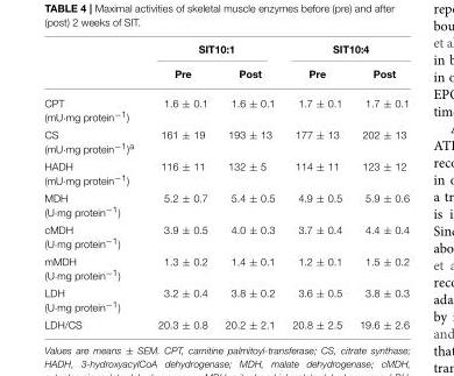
<table><thead><tr><td rowspan="2"></td><td colspan="2">SIT10:1</td><td colspan="2">SIT10:4</td></tr><tr><td>Pre</td><td>Post</td><td>Pre</td><td>Post</td></tr></thead><tbody><tr><td>CPT (mU·mg protein<sup>−1</sup>)</td><td>1.6 ± 0.1</td><td>1.6 ± 0.1</td><td>1.7 ± 0.1</td><td>1.7 ± 0.1</td></tr><tr><td>CS (mU·mg protein<sup>−1</sup>)<sup>a</sup></td><td>161 ± 19</td><td>193 ± 13</td><td>177 ± 13</td><td>202 ± 13</td></tr><tr><td>HADH (mU·mg protein<sup>−1</sup>)</td><td>116 ± 11</td><td>132 ± 5</td><td>114 ± 11</td><td>123 ± 12</td></tr><tr><td>MDH (U·mg protein<sup>−1</sup>)</td><td>5.2 ± 0.7</td><td>5.4 ± 0.5</td><td>4.9 ± 0.5</td><td>5.9 ± 0.6</td></tr><tr><td>cMDH (U·mg protein<sup>−1</sup>)</td><td>3.9 ± 0.5</td><td>4.0 ± 0.3</td><td>3.7 ± 0.4</td><td>4.4 ± 0.4</td></tr><tr><td>mMDH (U·mg protein<sup>−1</sup>)</td><td>1.3 ± 0.2</td><td>1.4 ± 0.1</td><td>1.2 ± 0.1</td><td>1.5 ± 0.2</td></tr><tr><td>LDH (U·mg protein<sup>−1</sup>)</td><td>3.2 ± 0.4</td><td>3.8 ± 0.2</td><td>3.6 ± 0.5</td><td>3.8 ± 0.3</td></tr><tr><td>LDH/CS</td><td>20.3 ± 0.8</td><td>20.2 ± 2.1</td><td>20.8 ± 2.5</td><td>19.6 ± 2.6</td></tr></tbody></table>